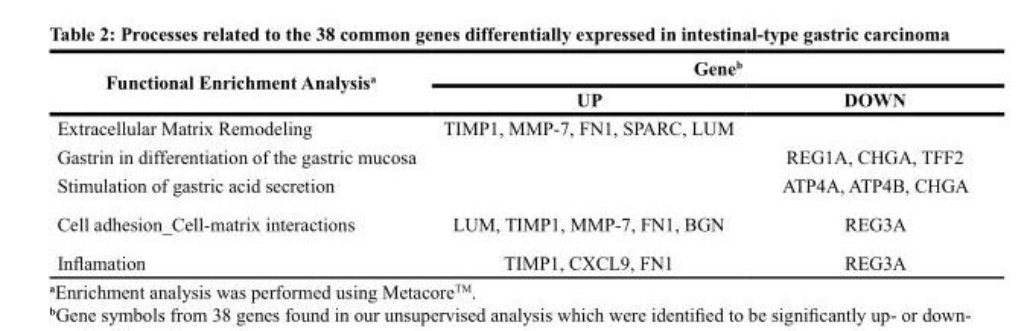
<table><thead><tr><td rowspan="2">Functional Enrichment Analysis<sup>a</sup></td><td colspan="2">Gene<sup>b</sup></td></tr><tr><td>UP</td><td>DOWN</td></tr></thead><tbody><tr><td>Extracellular Matrix Remodeling</td><td>TIMP1, MMP-7, FN1, SPARC, LUM</td><td></td></tr><tr><td>Gastrin in differentiation of the gastric mucosa</td><td></td><td>REG1A, CHGA, TFF2</td></tr><tr><td>Stimulation of gastric acid secretion</td><td></td><td>ATP4A, ATP4B, CHGA</td></tr><tr><td>Cell adhesion_Cell-matrix interactions</td><td>LUM, TIMP1, MMP-7, FN1, BGN</td><td>REG3A</td></tr><tr><td>Inflamation</td><td>TIMP1, CXCL9, FN1</td><td>REG3A</td></tr></tbody></table>